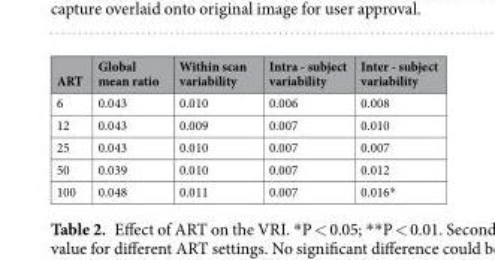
<table><thead><tr><td>ART</td><td>Global mean ratio</td><td>Within scan variability</td><td>Intra - subject variability</td><td>Inter - subject variability</td></tr></thead><tbody><tr><td>6</td><td>0.043</td><td>0.010</td><td>0.006</td><td>0.008</td></tr><tr><td>12</td><td>0.043</td><td>0.009</td><td>0.007</td><td>0.010</td></tr><tr><td>25</td><td>0.043</td><td>0.010</td><td>0.007</td><td>0.007</td></tr><tr><td>50</td><td>0.039</td><td>0.010</td><td>0.007</td><td>0.012</td></tr><tr><td>100</td><td>0.048</td><td>0.011</td><td>0.007</td><td>0.016*</td></tr></tbody></table>